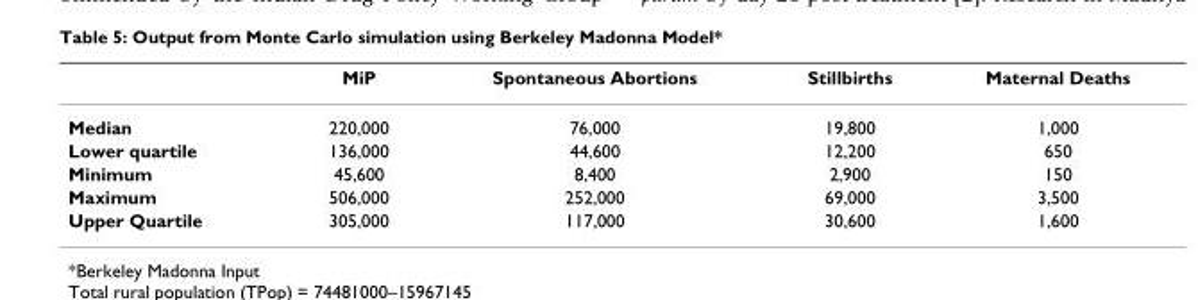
<table><thead><tr><td></td><td>MiP</td><td>Spontaneous Abortions</td><td>Stillbirths</td><td>Maternal Deaths</td></tr></thead><tbody><tr><td>Median</td><td>220,000</td><td>76,000</td><td>19,800</td><td>1,000</td></tr><tr><td>Lower quartile</td><td>136,000</td><td>44,600</td><td>12,200</td><td>650</td></tr><tr><td>Minimum</td><td>45,600</td><td>8,400</td><td>2,900</td><td>150</td></tr><tr><td>Maximum</td><td>506,000</td><td>252,000</td><td>69,000</td><td>3,500</td></tr><tr><td>Upper Quartile</td><td>305,000</td><td>117,000</td><td>30,600</td><td>1,600</td></tr></tbody></table>